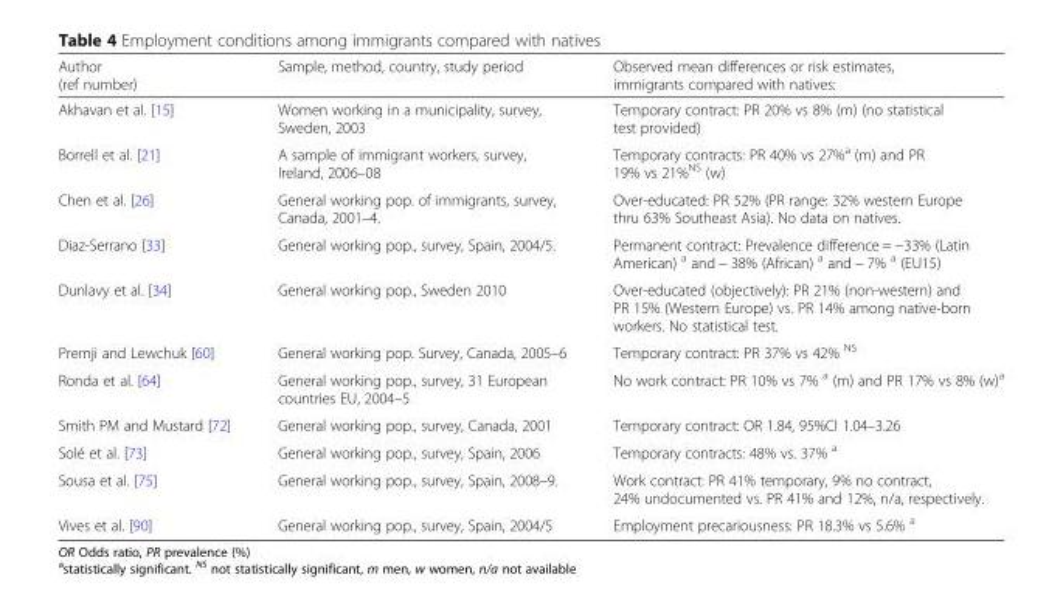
<table><thead><tr><td>Author (ref number)</td><td>Sample, method, country, study period</td><td>Observed mean differences or risk estimates, immigrants compared with natives:</td></tr></thead><tbody><tr><td>Akhavan et al. [15]</td><td>Women working in a municipality, survey, Sweden, 2003</td><td>Temporary contract: PR 20% vs 8% (m) (no statistical test provided)</td></tr><tr><td>Borrell et al. [21]</td><td>A sample of immigrant workers, survey, Ireland, 2006–08</td><td>Temporary contracts: PR 40% vs 27%<sup>a</sup> (m) and PR 19% vs 21%<sup>NS</sup> (w)</td></tr><tr><td>Chen et al. [26]</td><td>General working pop. of immigrants, survey, Canada, 2001–4.</td><td>Over-educated: PR 52% (PR range: 32% western Europe thru 63% Southeast Asia). No data on natives.</td></tr><tr><td>Diaz-Serrano [33]</td><td>General working pop., survey, Spain, 2004/5.</td><td>Permanent contract: Prevalence difference = −33% (Latin American) <sup>a</sup> and − 38% (African) <sup>a</sup> and − 7% <sup>a</sup> (EU15)</td></tr><tr><td>Dunlavy et al. [34]</td><td>General working pop., Sweden 2010</td><td>Over-educated (objectively): PR 21% (non-western) and PR 15% (Western Europe) vs. PR 14% among native-born workers. No statistical test.</td></tr><tr><td>Premji and Lewchuk [60]</td><td>General working pop. Survey, Canada, 2005–6</td><td>Temporary contract: PR 37% vs 42% <sup>NS</sup></td></tr><tr><td>Ronda et al. [64]</td><td>General working pop., survey, 31 European countries EU, 2004–5</td><td>No work contract: PR 10% vs 7% <sup>a</sup> (m) and PR 17% vs 8% (w)<sup>a</sup></td></tr><tr><td>Smith PM and Mustard [72]</td><td>General working pop., survey, Canada, 2001</td><td>Temporary contract: OR 1.84, 95%CI 1.04–3.26</td></tr><tr><td>Solé et al. [73]</td><td>General working pop., survey, Spain, 2006</td><td>Temporary contracts: 48% vs. 37% <sup>a</sup></td></tr><tr><td>Sousa et al. [75]</td><td>General working pop., survey, Spain, 2008–9.</td><td>Work contract: PR 41% temporary, 9% no contract, 24% undocumented vs. PR 41% and 12%, n/a, respectively.</td></tr><tr><td>Vives et al. [90]</td><td>General working pop., survey, Spain, 2004/5</td><td>Employment precariousness: PR 18.3% vs 5.6% <sup>a</sup></td></tr></tbody></table>